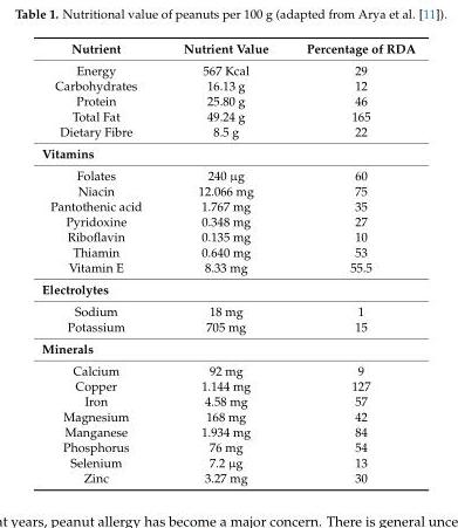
<table><thead><tr><td>Nutrient</td><td>Nutrient Value</td><td>Percentage of RDA</td></tr></thead><tbody><tr><td>Energy</td><td>567 Kcal</td><td>29</td></tr><tr><td>Carbohydrates</td><td>16.13 g</td><td>12</td></tr><tr><td>Protein</td><td>25.80 g</td><td>46</td></tr><tr><td>Total Fat</td><td>49.24 g</td><td>165</td></tr><tr><td>Dietary Fibre</td><td>8.5 g</td><td>22</td></tr><tr><td colspan="3">Vitamins</td></tr><tr><td>Folates</td><td>240 µg</td><td>60</td></tr><tr><td>Niacin</td><td>12.066 mg</td><td>75</td></tr><tr><td>Pantothenic acid</td><td>1.767 mg</td><td>35</td></tr><tr><td>Pyridoxine</td><td>0.348 mg</td><td>27</td></tr><tr><td>Riboflavin</td><td>0.135 mg</td><td>10</td></tr><tr><td>Thiamin</td><td>0.640 mg</td><td>53</td></tr><tr><td>Vitamin E</td><td>8.33 mg</td><td>55.5</td></tr><tr><td colspan="3">Electrolytes</td></tr><tr><td>Sodium</td><td>18 mg</td><td>1</td></tr><tr><td>Potassium</td><td>705 mg</td><td>15</td></tr><tr><td colspan="3">Minerals</td></tr><tr><td>Calcium</td><td>92 mg</td><td>9</td></tr><tr><td>Copper</td><td>1.144 mg</td><td>127</td></tr><tr><td>Iron</td><td>4.58 mg</td><td>57</td></tr><tr><td>Magnesium</td><td>168 mg</td><td>42</td></tr><tr><td>Manganese</td><td>1.934 mg</td><td>84</td></tr><tr><td>Phosphorus</td><td>76 mg</td><td>54</td></tr><tr><td>Selenium</td><td>7.2 µg</td><td>13</td></tr><tr><td>Zinc</td><td>3.27 mg</td><td>30</td></tr></tbody></table>